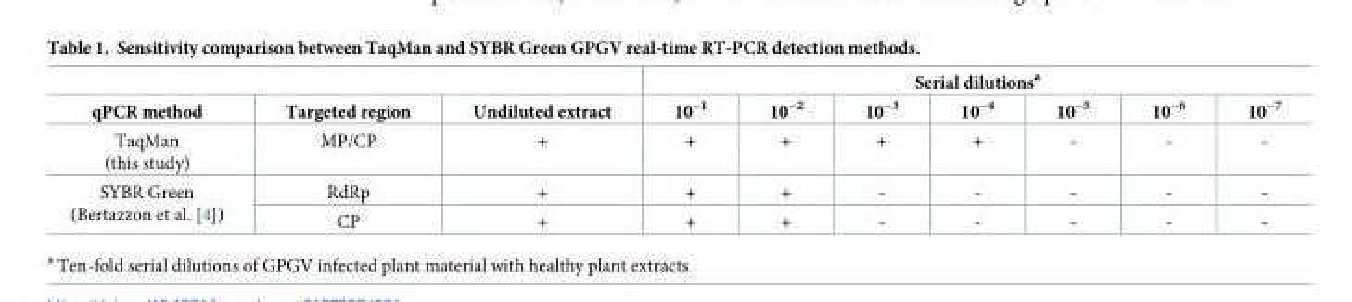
<table><thead><tr><td rowspan="2">qPCR method</td><td rowspan="2">Targeted region</td><td rowspan="2">Undiluted extract</td><td colspan="7">Serial dilutions<sup>a</sup></td></tr><tr><td>10<sup>−1</sup></td><td>10<sup>−2</sup></td><td>10<sup>−3</sup></td><td>10<sup>−4</sup></td><td>10<sup>−5</sup></td><td>10<sup>−6</sup></td><td>10<sup>−7</sup></td></tr></thead><tbody><tr><td>TaqMan (this study)</td><td>MP/CP</td><td>+</td><td>+</td><td>+</td><td>+</td><td>+</td><td>-</td><td>-</td><td>-</td></tr><tr><td rowspan="2">SYBR Green (Bertazzon et al. [4])</td><td>RdRp</td><td>+</td><td>+</td><td>+</td><td>-</td><td>-</td><td>-</td><td>-</td><td>-</td></tr><tr><td>CP</td><td>+</td><td>+</td><td>+</td><td>-</td><td>-</td><td>-</td><td>-</td><td>-</td></tr></tbody></table>